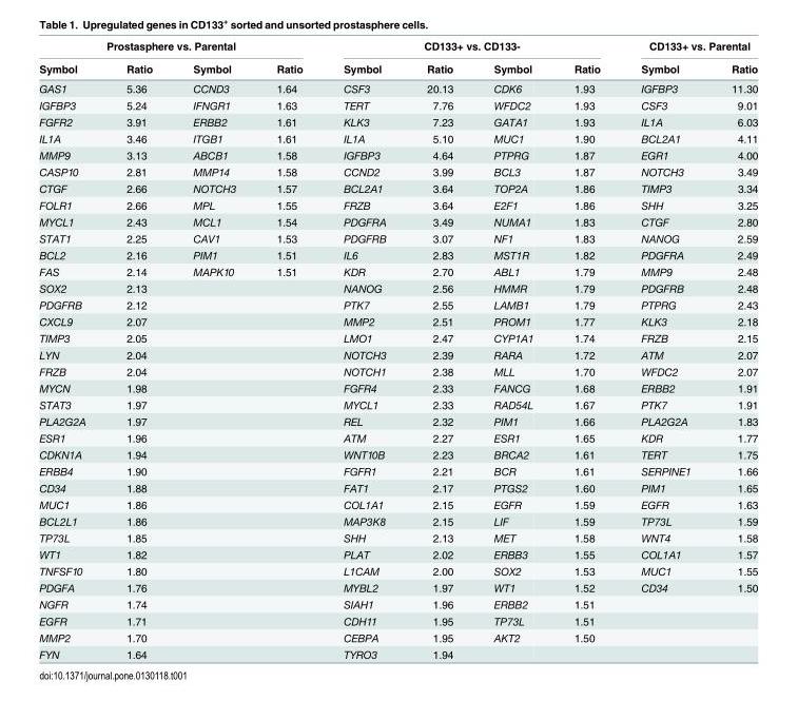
<table><thead><tr><td colspan="4">Prostasphere vs. Parental</td><td colspan="4">CD133+ vs. CD133-</td><td colspan="2">CD133+ vs. Parental</td></tr><tr><td>Symbol</td><td>Ratio</td><td>Symbol</td><td>Ratio</td><td>Symbol</td><td>Ratio</td><td>Symbol</td><td>Ratio</td><td>Symbol</td><td>Ratio</td></tr></thead><tbody><tr><td>GAS1</td><td>5.36</td><td>CCND3</td><td>1.64</td><td>CSF3</td><td>20.13</td><td>CDK6</td><td>1.93</td><td>IGFBP3</td><td>11.30</td></tr><tr><td>IGFBP3</td><td>5.24</td><td>IFNGR1</td><td>1.63</td><td>TERT</td><td>7.76</td><td>WFDC2</td><td>1.93</td><td>CSF3</td><td>9.01</td></tr><tr><td>FGFR2</td><td>3.91</td><td>ERBB2</td><td>1.61</td><td>KLK3</td><td>7.23</td><td>GATA1</td><td>1.93</td><td>IL1A</td><td>6.03</td></tr><tr><td>IL1A</td><td>3.46</td><td>ITGB1</td><td>1.61</td><td>IL1A</td><td>5.10</td><td>MUC1</td><td>1.90</td><td>BCL2A1</td><td>4.11</td></tr><tr><td>MMP9</td><td>3.13</td><td>ABCB1</td><td>1.58</td><td>IGFBP3</td><td>4.64</td><td>PTPRG</td><td>1.87</td><td>EGR1</td><td>4.00</td></tr><tr><td>CASP10</td><td>2.81</td><td>MMP14</td><td>1.58</td><td>CCND2</td><td>3.99</td><td>BCL3</td><td>1.87</td><td>NOTCH3</td><td>3.49</td></tr><tr><td>CTGF</td><td>2.66</td><td>NOTCH3</td><td>1.57</td><td>BCL2A1</td><td>3.64</td><td>TOP2A</td><td>1.86</td><td>TIMP3</td><td>3.34</td></tr><tr><td>FOLR1</td><td>2.66</td><td>MPL</td><td>1.55</td><td>FRZB</td><td>3.64</td><td>E2F1</td><td>1.86</td><td>SHH</td><td>3.25</td></tr><tr><td>MYCL1</td><td>2.43</td><td>MCL1</td><td>1.54</td><td>PDGFRA</td><td>3.49</td><td>NUMA1</td><td>1.83</td><td>CTGF</td><td>2.80</td></tr><tr><td>STAT1</td><td>2.25</td><td>CAV1</td><td>1.53</td><td>PDGFRB</td><td>3.07</td><td>NF1</td><td>1.83</td><td>NANOG</td><td>2.59</td></tr><tr><td>BCL2</td><td>2.16</td><td>PIM1</td><td>1.51</td><td>IL6</td><td>2.83</td><td>MST1R</td><td>1.82</td><td>PDGFRA</td><td>2.49</td></tr><tr><td>FAS</td><td>2.14</td><td>MAPK10</td><td>1.51</td><td>KDR</td><td>2.70</td><td>ABL1</td><td>1.79</td><td>MMP9</td><td>2.48</td></tr><tr><td>SOX2</td><td>2.13</td><td></td><td></td><td>NANOG</td><td>2.56</td><td>HMMR</td><td>1.79</td><td>PDGFRB</td><td>2.48</td></tr><tr><td>PDGFRB</td><td>2.12</td><td></td><td></td><td>PTK7</td><td>2.55</td><td>LAMB1</td><td>1.79</td><td>PTPRG</td><td>2.43</td></tr><tr><td>CXCL9</td><td>2.07</td><td></td><td></td><td>MMP2</td><td>2.51</td><td>PROM1</td><td>1.77</td><td>KLK3</td><td>2.18</td></tr><tr><td>TIMP3</td><td>2.05</td><td></td><td></td><td>LMO1</td><td>2.47</td><td>CYP1A1</td><td>1.74</td><td>FRZB</td><td>2.15</td></tr><tr><td>LYN</td><td>2.04</td><td></td><td></td><td>NOTCH3</td><td>2.39</td><td>RARA</td><td>1.72</td><td>ATM</td><td>2.07</td></tr><tr><td>FRZB</td><td>2.04</td><td></td><td></td><td>NOTCH1</td><td>2.38</td><td>MLL</td><td>1.70</td><td>WFDC2</td><td>2.07</td></tr><tr><td>MYCN</td><td>1.98</td><td></td><td></td><td>FGFR4</td><td>2.33</td><td>FANCG</td><td>1.68</td><td>ERBB2</td><td>1.91</td></tr><tr><td>STAT3</td><td>1.97</td><td></td><td></td><td>MYCL1</td><td>2.33</td><td>RAD54L</td><td>1.67</td><td>PTK7</td><td>1.91</td></tr><tr><td>PLA2G2A</td><td>1.97</td><td></td><td></td><td>REL</td><td>2.32</td><td>PIM1</td><td>1.66</td><td>PLA2G2A</td><td>1.83</td></tr><tr><td>ESR1</td><td>1.96</td><td></td><td></td><td>ATM</td><td>2.27</td><td>ESR1</td><td>1.65</td><td>KDR</td><td>1.77</td></tr><tr><td>CDKN1A</td><td>1.94</td><td></td><td></td><td>WNT10B</td><td>2.23</td><td>BRCA2</td><td>1.61</td><td>TERT</td><td>1.75</td></tr><tr><td>ERBB4</td><td>1.90</td><td></td><td></td><td>FGFR1</td><td>2.21</td><td>BCR</td><td>1.61</td><td>SERPINE1</td><td>1.66</td></tr><tr><td>CD34</td><td>1.88</td><td></td><td></td><td>FAT1</td><td>2.17</td><td>PTGS2</td><td>1.60</td><td>PIM1</td><td>1.65</td></tr><tr><td>MUC1</td><td>1.86</td><td></td><td></td><td>COL1A1</td><td>2.15</td><td>EGFR</td><td>1.59</td><td>EGFR</td><td>1.63</td></tr><tr><td>BCL2L1</td><td>1.86</td><td></td><td></td><td>MAP3K8</td><td>2.15</td><td>LIF</td><td>1.59</td><td>TP73L</td><td>1.59</td></tr><tr><td>TP73L</td><td>1.85</td><td></td><td></td><td>SHH</td><td>2.13</td><td>MET</td><td>1.58</td><td>WNT4</td><td>1.58</td></tr><tr><td>WT1</td><td>1.82</td><td></td><td></td><td>PLAT</td><td>2.02</td><td>ERBB3</td><td>1.55</td><td>COL1A1</td><td>1.57</td></tr><tr><td>TNFSF10</td><td>1.80</td><td></td><td></td><td>L1CAM</td><td>2.00</td><td>SOX2</td><td>1.53</td><td>MUC1</td><td>1.55</td></tr><tr><td>PDGFA</td><td>1.76</td><td></td><td></td><td>MYBL2</td><td>1.97</td><td>WT1</td><td>1.52</td><td>CD34</td><td>1.50</td></tr><tr><td>NGFR</td><td>1.74</td><td></td><td></td><td>SIAH1</td><td>1.96</td><td>ERBB2</td><td>1.51</td><td></td><td></td></tr><tr><td>EGFR</td><td>1.71</td><td></td><td></td><td>CDH11</td><td>1.95</td><td>TP73L</td><td>1.51</td><td></td><td></td></tr><tr><td>MMP2</td><td>1.70</td><td></td><td></td><td>CEBPA</td><td>1.95</td><td>AKT2</td><td>1.50</td><td></td><td></td></tr><tr><td>FYN</td><td>1.64</td><td></td><td></td><td>TYRO3</td><td>1.94</td><td></td><td></td><td></td><td></td></tr></tbody></table>